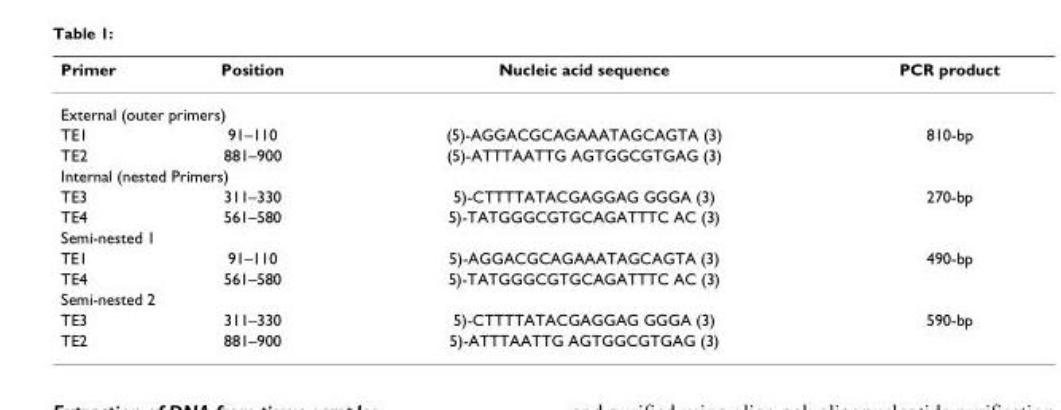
<table><thead><tr><td>Primer</td><td>Position</td><td>Nucleic acid sequence</td><td>PCR product</td></tr></thead><tbody><tr><td colspan="4">External (outer primers)</td></tr><tr><td>TE1</td><td>91–110</td><td>(5)-AGGACGCAGAAATAGCAGTA (3)</td><td>810-bp</td></tr><tr><td>TE2</td><td>881–900</td><td>(5)-ATTTAATTG AGTGGCGTGAG (3)</td><td></td></tr><tr><td colspan="4">Internal (nested Primers)</td></tr><tr><td>TE3</td><td>311–330</td><td>5)-CTTTTATACGAGGAG GGGA (3)</td><td>270-bp</td></tr><tr><td>TE4</td><td>561–580</td><td>5)-TATGGGCGTGCAGATTTC AC (3)</td><td></td></tr><tr><td colspan="4">Semi-nested 1</td></tr><tr><td>TE1</td><td>91–110</td><td>5)-AGGACGCAGAAATAGCAGTA (3)</td><td>490-bp</td></tr><tr><td>TE4</td><td>561–580</td><td>5)-TATGGGCGTGCAGATTTC AC (3)</td><td></td></tr><tr><td colspan="4">Semi-nested 2</td></tr><tr><td>TE3</td><td>311–330</td><td>5)-CTTTTATACGAGGAG GGGA (3)</td><td>590-bp</td></tr><tr><td>TE2</td><td>881–900</td><td>5)-ATTTAATTG AGTGGCGTGAG (3)</td><td></td></tr></tbody></table>